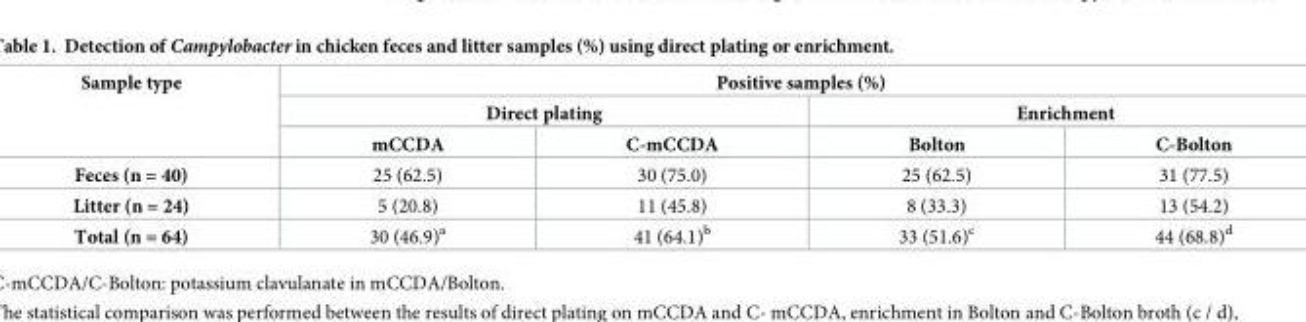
<table><thead><tr><td rowspan="3">Sample type</td><td colspan="4">Positive samples (%)</td></tr><tr><td colspan="2">Direct plating</td><td colspan="2">Enrichment</td></tr><tr><td>mCCDA</td><td>C-mCCDA</td><td>Bolton</td><td>C-Bolton</td></tr></thead><tbody><tr><td>Feces (n = 40)</td><td>25 (62.5)</td><td>30 (75.0)</td><td>25 (62.5)</td><td>31 (77.5)</td></tr><tr><td>Litter (n = 24)</td><td>5 (20.8)</td><td>11 (45.8)</td><td>8 (33.3)</td><td>13 (54.2)</td></tr><tr><td>Total (n = 64)</td><td>30 (46.9)<sup>a</sup></td><td>41 (64.1)<sup>b</sup></td><td>33 (51.6)<sup>c</sup></td><td>44 (68.8)<sup>d</sup></td></tr></tbody></table>